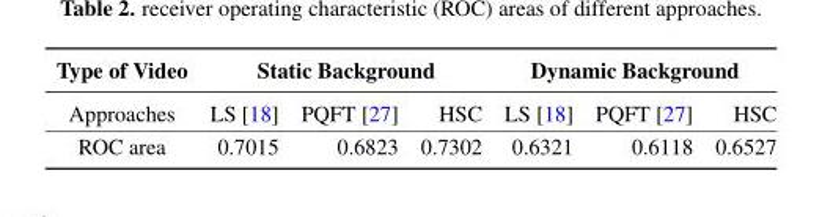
<table><thead><tr><td rowspan="2">Type of Video Approaches</td><td colspan="3">Static Background</td><td colspan="3">Dynamic Background</td></tr><tr><td>LS [18]</td><td>PQFT [27]</td><td>HSC</td><td>LS [18]</td><td>PQFT [27]</td><td>HSC</td></tr></thead><tbody><tr><td>ROC area</td><td>0.7015</td><td>0.6823</td><td>0.7302</td><td>0.6321</td><td>0.6118</td><td>0.6527</td></tr></tbody></table>